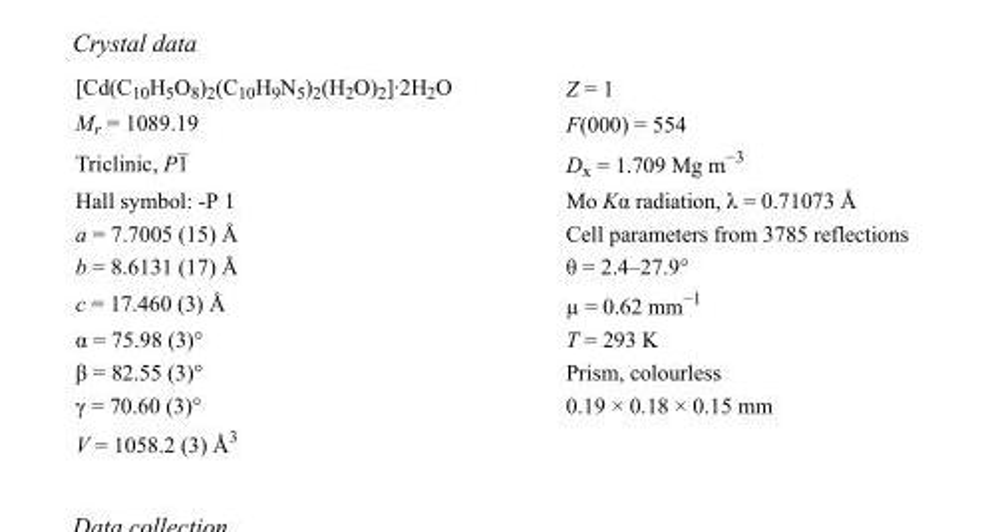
<table><tbody><tr><td>[Cd(C<sub>10</sub>H<sub>5</sub>O<sub>8</sub>)<sub>2</sub>(C<sub>10</sub>H<sub>9</sub>N<sub>5</sub>)<sub>2</sub>(H<sub>2</sub>O)<sub>2</sub>]·2H<sub>2</sub>O</td><td>Z = 1</td></tr><tr><td>M<sub>r</sub> = 1089.19</td><td>F(000) = 554</td></tr><tr><td>Triclinic, P1</td><td>D<sub>x</sub> = 1.709 Mg m<sup>−3</sup></td></tr><tr><td>Hall symbol: -P 1</td><td>Mo Kα radiation, λ = 0.71073 Å</td></tr><tr><td>a = 7.7005 (15) Å</td><td>Cell parameters from 3785 reflections</td></tr><tr><td>b = 8.6131 (17) Å</td><td>θ = 2.4–27.9°</td></tr><tr><td>c = 17.460 (3) Å</td><td>µ = 0.62 mm<sup>−1</sup></td></tr><tr><td>α = 75.98 (3)°</td><td>T = 293 K</td></tr><tr><td>β = 82.55 (3)°</td><td>Prism, colourless</td></tr><tr><td>γ = 70.60 (3)°</td><td>0.19 × 0.18 × 0.15 mm</td></tr><tr><td>V = 1058.2 (3) Å<sup>3</sup></td><td></td></tr></tbody></table>